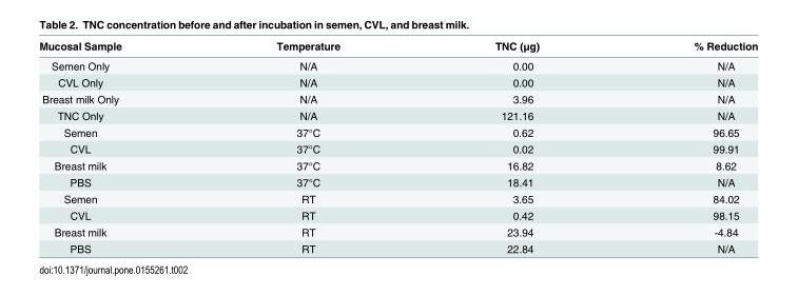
<table><thead><tr><td>Mucosal Sample</td><td>Temperature</td><td>TNC (μg)</td><td>% Reduction</td></tr></thead><tbody><tr><td>Semen Only</td><td>N/A</td><td>0.00</td><td>N/A</td></tr><tr><td>CVL Only</td><td>N/A</td><td>0.00</td><td>N/A</td></tr><tr><td>Breast milk Only</td><td>N/A</td><td>3.96</td><td>N/A</td></tr><tr><td>TNC Only</td><td>N/A</td><td>121.16</td><td>N/A</td></tr><tr><td>Semen</td><td>37°C</td><td>0.62</td><td>96.65</td></tr><tr><td>CVL</td><td>37°C</td><td>0.02</td><td>99.91</td></tr><tr><td>Breast milk</td><td>37°C</td><td>16.82</td><td>8.62</td></tr><tr><td>PBS</td><td>37°C</td><td>18.41</td><td>N/A</td></tr><tr><td>Semen</td><td>RT</td><td>3.65</td><td>84.02</td></tr><tr><td>CVL</td><td>RT</td><td>0.42</td><td>98.15</td></tr><tr><td>Breast milk</td><td>RT</td><td>23.94</td><td>-4.84</td></tr><tr><td>PBS</td><td>RT</td><td>22.84</td><td>N/A</td></tr></tbody></table>